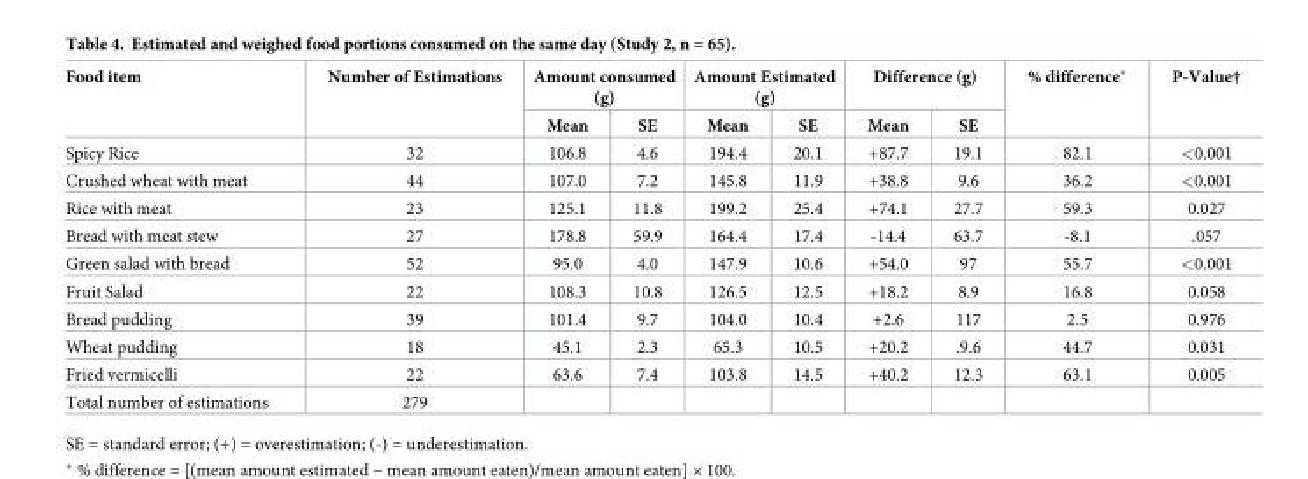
<table><thead><tr><td rowspan="2">Food item</td><td rowspan="2">Number of Estimations</td><td colspan="2">Amount consumed (g)</td><td colspan="2">Amount Estimated (g)</td><td colspan="2">Difference (g)</td><td rowspan="2">% difference*</td><td rowspan="2">P-Value†</td></tr><tr><td>Mean</td><td>SE</td><td>Mean</td><td>SE</td><td>Mean</td><td>SE</td></tr></thead><tbody><tr><td>Spicy Rice</td><td>32</td><td>106.8</td><td>4.6</td><td>194.4</td><td>20.1</td><td>+87.7</td><td>19.1</td><td>82.1</td><td>&lt;0.001</td></tr><tr><td>Crushed wheat with meat</td><td>44</td><td>107.0</td><td>7.2</td><td>145.8</td><td>11.9</td><td>+38.8</td><td>9.6</td><td>36.2</td><td>&lt;0.001</td></tr><tr><td>Rice with meat</td><td>23</td><td>125.1</td><td>11.8</td><td>199.2</td><td>25.4</td><td>+74.1</td><td>27.7</td><td>59.3</td><td>0.027</td></tr><tr><td>Bread with meat stew</td><td>27</td><td>178.8</td><td>59.9</td><td>164.4</td><td>17.4</td><td>-14.4</td><td>63.7</td><td>-8.1</td><td>.057</td></tr><tr><td>Green salad with bread</td><td>52</td><td>95.0</td><td>4.0</td><td>147.9</td><td>10.6</td><td>+54.0</td><td>97</td><td>55.7</td><td>&lt;0.001</td></tr><tr><td>Fruit Salad</td><td>22</td><td>108.3</td><td>10.8</td><td>126.5</td><td>12.5</td><td>+18.2</td><td>8.9</td><td>16.8</td><td>0.058</td></tr><tr><td>Bread pudding</td><td>39</td><td>101.4</td><td>9.7</td><td>104.0</td><td>10.4</td><td>+2.6</td><td>117</td><td>2.5</td><td>0.976</td></tr><tr><td>Wheat pudding</td><td>18</td><td>45.1</td><td>2.3</td><td>65.3</td><td>10.5</td><td>+20.2</td><td>.9.6</td><td>44.7</td><td>0.031</td></tr><tr><td>Fried vermicelli</td><td>22</td><td>63.6</td><td>7.4</td><td>103.8</td><td>14.5</td><td>+40.2</td><td>12.3</td><td>63.1</td><td>0.005</td></tr><tr><td>Total number of estimations</td><td>279</td><td></td><td></td><td></td><td></td><td></td><td></td><td></td><td></td></tr></tbody></table>